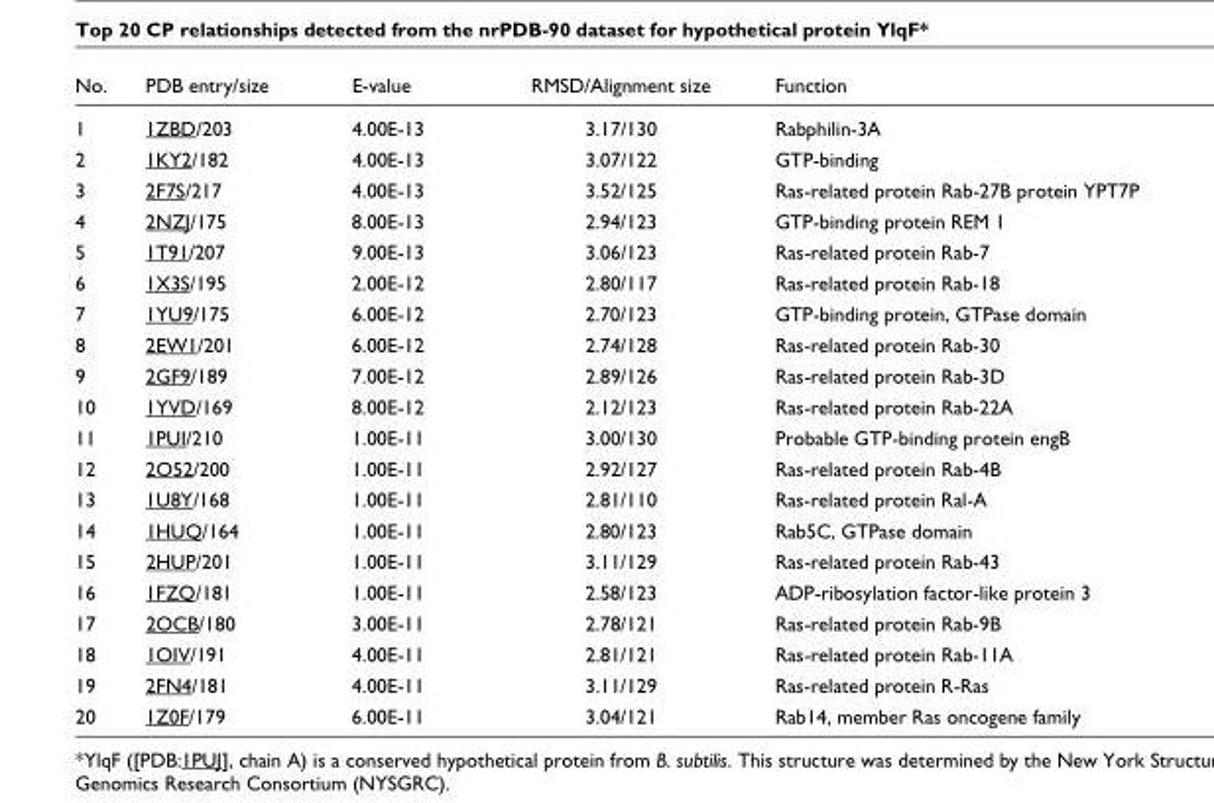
<table><thead><tr><td>No.</td><td>PDB entry/size</td><td>E-value</td><td>RMSD/Alignment size</td><td>Function</td></tr></thead><tbody><tr><td>1</td><td>1ZBD/203</td><td>4.00E-13</td><td>3.17/130</td><td>Rabphilin-3A</td></tr><tr><td>2</td><td>1KY2/182</td><td>4.00E-13</td><td>3.07/122</td><td>GTP-binding</td></tr><tr><td>3</td><td>2F7S/217</td><td>4.00E-13</td><td>3.52/125</td><td>Ras-related protein Rab-27B protein YPT7P</td></tr><tr><td>4</td><td>2NZJ/175</td><td>8.00E-13</td><td>2.94/123</td><td>GTP-binding protein REM 1</td></tr><tr><td>5</td><td>1T91/207</td><td>9.00E-13</td><td>3.06/123</td><td>Ras-related protein Rab-7</td></tr><tr><td>6</td><td>1X3S/195</td><td>2.00E-12</td><td>2.80/117</td><td>Ras-related protein Rab-18</td></tr><tr><td>7</td><td>1YU9/175</td><td>6.00E-12</td><td>2.70/123</td><td>GTP-binding protein, GTPase domain</td></tr><tr><td>8</td><td>2EW1/201</td><td>6.00E-12</td><td>2.74/128</td><td>Ras-related protein Rab-30</td></tr><tr><td>9</td><td>2GF9/189</td><td>7.00E-12</td><td>2.89/126</td><td>Ras-related protein Rab-3D</td></tr><tr><td>10</td><td>1YVD/169</td><td>8.00E-12</td><td>2.12/123</td><td>Ras-related protein Rab-22A</td></tr><tr><td>11</td><td>1PUI/210</td><td>1.00E-11</td><td>3.00/130</td><td>Probable GTP-binding protein engB</td></tr><tr><td>12</td><td>2O52/200</td><td>1.00E-11</td><td>2.92/127</td><td>Ras-related protein Rab-4B</td></tr><tr><td>13</td><td>1U8Y/168</td><td>1.00E-11</td><td>2.81/110</td><td>Ras-related protein Ral-A</td></tr><tr><td>14</td><td>1HUQ/164</td><td>1.00E-11</td><td>2.80/123</td><td>Rab5C, GTPase domain</td></tr><tr><td>15</td><td>2HUP/201</td><td>1.00E-11</td><td>3.11/129</td><td>Ras-related protein Rab-43</td></tr><tr><td>16</td><td>1FZQ/181</td><td>1.00E-11</td><td>2.58/123</td><td>ADP-ribosylation factor-like protein 3</td></tr><tr><td>17</td><td>2OCB/180</td><td>3.00E-11</td><td>2.78/121</td><td>Ras-related protein Rab-9B</td></tr><tr><td>18</td><td>1OIV/191</td><td>4.00E-11</td><td>2.81/121</td><td>Ras-related protein Rab-11A</td></tr><tr><td>19</td><td>2FN4/181</td><td>4.00E-11</td><td>3.11/129</td><td>Ras-related protein R-Ras</td></tr><tr><td>20</td><td>1Z0F/179</td><td>6.00E-11</td><td>3.04/121</td><td>Rab14, member Ras oncogene family</td></tr></tbody></table>